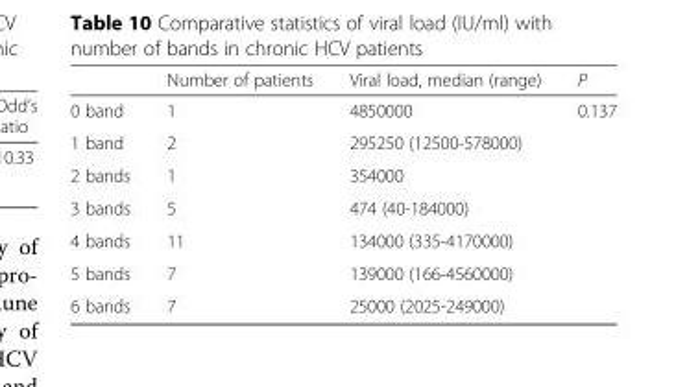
<table><thead><tr><td></td><td>Number of patients</td><td>Viral load, median (range)</td><td>P</td></tr></thead><tbody><tr><td>0 band</td><td>1</td><td>4850000</td><td rowspan="7">0.137</td></tr><tr><td>1 band</td><td>2</td><td>295250 (12500-578000)</td></tr><tr><td>2 bands</td><td>1</td><td>354000</td></tr><tr><td>3 bands</td><td>5</td><td>474 (40-184000)</td></tr><tr><td>4 bands</td><td>11</td><td>134000 (335-4170000)</td></tr><tr><td>5 bands</td><td>7</td><td>139000 (166-4560000)</td></tr><tr><td>6 bands</td><td>7</td><td>25000 (2025-249000)</td></tr></tbody></table>